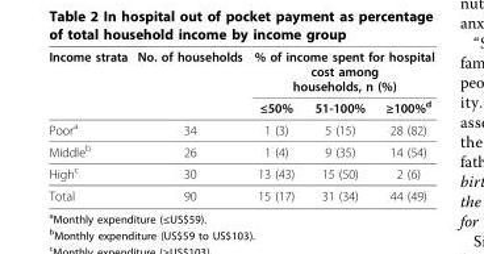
<table><thead><tr><td rowspan="2">Income strata</td><td rowspan="2">No. of households</td><td colspan="3">% of income spent for hospital cost among households, n (%)</td></tr><tr><td>≤50%</td><td>51-100%</td><td>≥100%<sup>d</sup></td></tr></thead><tbody><tr><td>Poor<sup>a</sup></td><td>34</td><td>1 (3)</td><td>5 (15)</td><td>28 (82)</td></tr><tr><td>Middle<sup>b</sup></td><td>26</td><td>1 (4)</td><td>9 (35)</td><td>14 (54)</td></tr><tr><td>High<sup>c</sup></td><td>30</td><td>13 (43)</td><td>15 (50)</td><td>2 (6)</td></tr><tr><td>Total</td><td>90</td><td>15 (17)</td><td>31 (34)</td><td>44 (49)</td></tr></tbody></table>